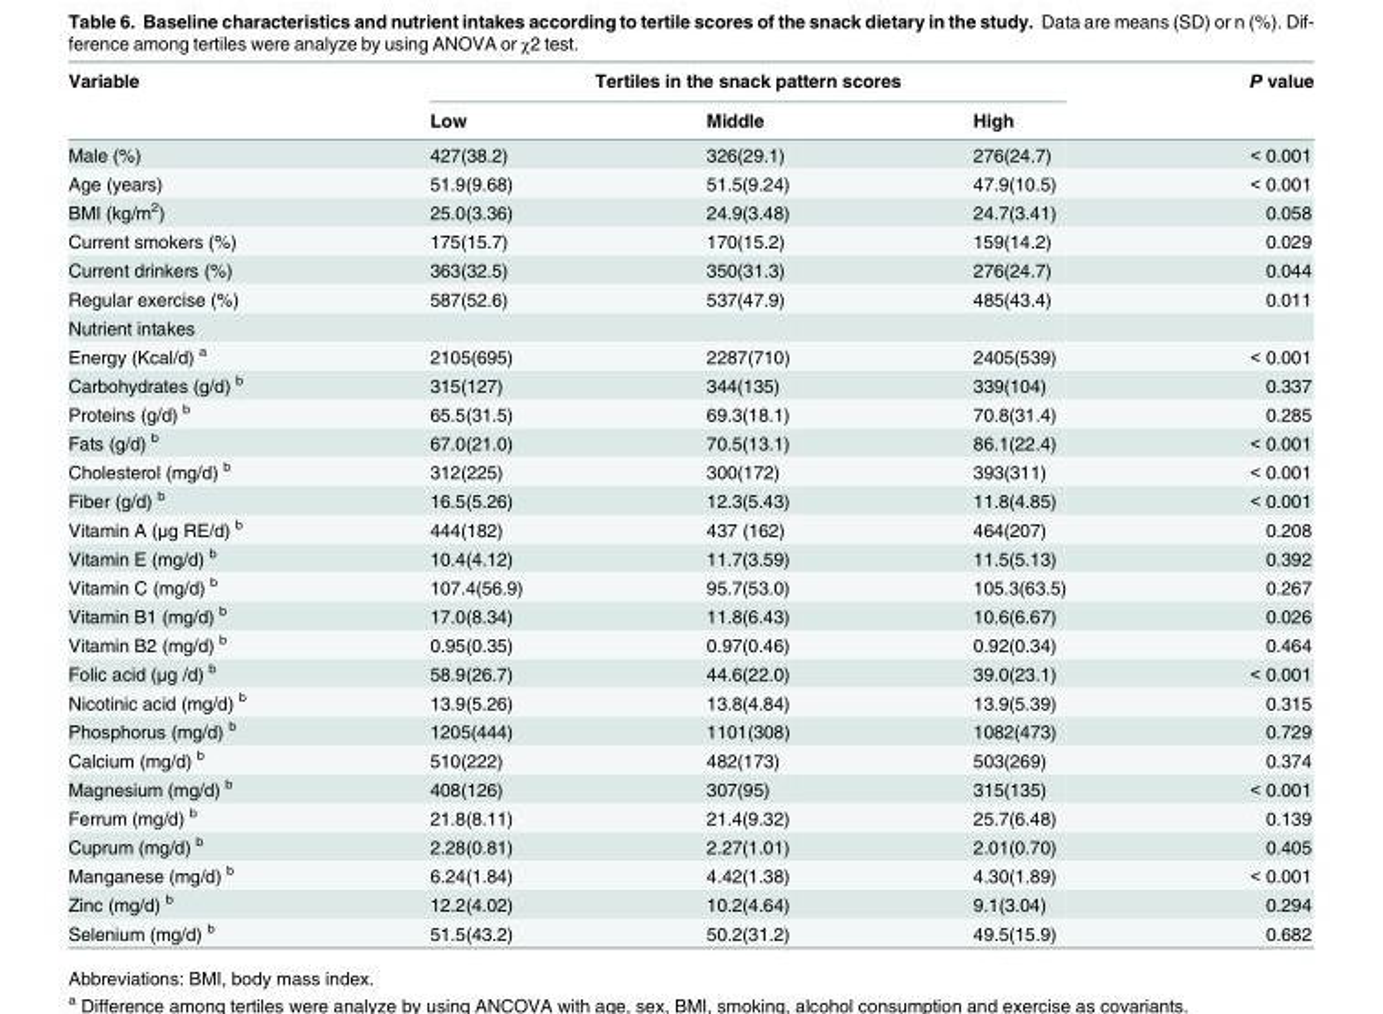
<table><thead><tr><td rowspan="2">Variable</td><td colspan="3">Tertiles in the snack pattern scores</td><td rowspan="2">P value</td></tr><tr><td>Low</td><td>Middle</td><td>High</td></tr></thead><tbody><tr><td>Male (%)</td><td>427(38.2)</td><td>326(29.1)</td><td>276(24.7)</td><td>&lt; 0.001</td></tr><tr><td>Age (years)</td><td>51.9(9.68)</td><td>51.5(9.24)</td><td>47.9(10.5)</td><td>&lt; 0.001</td></tr><tr><td>BMI (kg/m<sup>2</sup>)</td><td>25.0(3.36)</td><td>24.9(3.48)</td><td>24.7(3.41)</td><td>0.058</td></tr><tr><td>Current smokers (%)</td><td>175(15.7)</td><td>170(15.2)</td><td>159(14.2)</td><td>0.029</td></tr><tr><td>Current drinkers (%)</td><td>363(32.5)</td><td>350(31.3)</td><td>276(24.7)</td><td>0.044</td></tr><tr><td>Regular exercise (%)</td><td>587(52.6)</td><td>537(47.9)</td><td>485(43.4)</td><td>0.011</td></tr><tr><td colspan="5">Nutrient intakes</td></tr><tr><td>Energy (Kcal/d) <sup>a</sup></td><td>2105(695)</td><td>2287(710)</td><td>2405(539)</td><td>&lt; 0.001</td></tr><tr><td>Carbohydrates (g/d) <sup>b</sup></td><td>315(127)</td><td>344(135)</td><td>339(104)</td><td>0.337</td></tr><tr><td>Proteins (g/d) <sup>b</sup></td><td>65.5(31.5)</td><td>69.3(18.1)</td><td>70.8(31.4)</td><td>0.285</td></tr><tr><td>Fats (g/d) <sup>b</sup></td><td>67.0(21.0)</td><td>70.5(13.1)</td><td>86.1(22.4)</td><td>&lt; 0.001</td></tr><tr><td>Cholesterol (mg/d) <sup>b</sup></td><td>312(225)</td><td>300(172)</td><td>393(311)</td><td>&lt; 0.001</td></tr><tr><td>Fiber (g/d) <sup>b</sup></td><td>16.5(5.26)</td><td>12.3(5.43)</td><td>11.8(4.85)</td><td>&lt; 0.001</td></tr><tr><td>Vitamin A (μg RE/d) <sup>b</sup></td><td>444(182)</td><td>437 (162)</td><td>464(207)</td><td>0.208</td></tr><tr><td>Vitamin E (mg/d) <sup>b</sup></td><td>10.4(4.12)</td><td>11.7(3.59)</td><td>11.5(5.13)</td><td>0.392</td></tr><tr><td>Vitamin C (mg/d) <sup>b</sup></td><td>107.4(56.9)</td><td>95.7(53.0)</td><td>105.3(63.5)</td><td>0.267</td></tr><tr><td>Vitamin B1 (mg/d) <sup>b</sup></td><td>17.0(8.34)</td><td>11.8(6.43)</td><td>10.6(6.67)</td><td>0.026</td></tr><tr><td>Vitamin B2 (mg/d) <sup>b</sup></td><td>0.95(0.35)</td><td>0.97(0.46)</td><td>0.92(0.34)</td><td>0.464</td></tr><tr><td>Folic acid (μg /d) <sup>b</sup></td><td>58.9(26.7)</td><td>44.6(22.0)</td><td>39.0(23.1)</td><td>&lt; 0.001</td></tr><tr><td>Nicotinic acid (mg/d) <sup>b</sup></td><td>13.9(5.26)</td><td>13.8(4.84)</td><td>13.9(5.39)</td><td>0.315</td></tr><tr><td>Phosphorus (mg/d) <sup>b</sup></td><td>1205(444)</td><td>1101(308)</td><td>1082(473)</td><td>0.729</td></tr><tr><td>Calcium (mg/d) <sup>b</sup></td><td>510(222)</td><td>482(173)</td><td>503(269)</td><td>0.374</td></tr><tr><td>Magnesium (mg/d) <sup>b</sup></td><td>408(126)</td><td>307(95)</td><td>315(135)</td><td>&lt; 0.001</td></tr><tr><td>Ferrum (mg/d) <sup>b</sup></td><td>21.8(8.11)</td><td>21.4(9.32)</td><td>25.7(6.48)</td><td>0.139</td></tr><tr><td>Cuprum (mg/d) <sup>b</sup></td><td>2.28(0.81)</td><td>2.27(1.01)</td><td>2.01(0.70)</td><td>0.405</td></tr><tr><td>Manganese (mg/d) <sup>b</sup></td><td>6.24(1.84)</td><td>4.42(1.38)</td><td>4.30(1.89)</td><td>&lt; 0.001</td></tr><tr><td>Zinc (mg/d) <sup>b</sup></td><td>12.2(4.02)</td><td>10.2(4.64)</td><td>9.1(3.04)</td><td>0.294</td></tr><tr><td>Selenium (mg/d) <sup>b</sup></td><td>51.5(43.2)</td><td>50.2(31.2)</td><td>49.5(15.9)</td><td>0.682</td></tr></tbody></table>